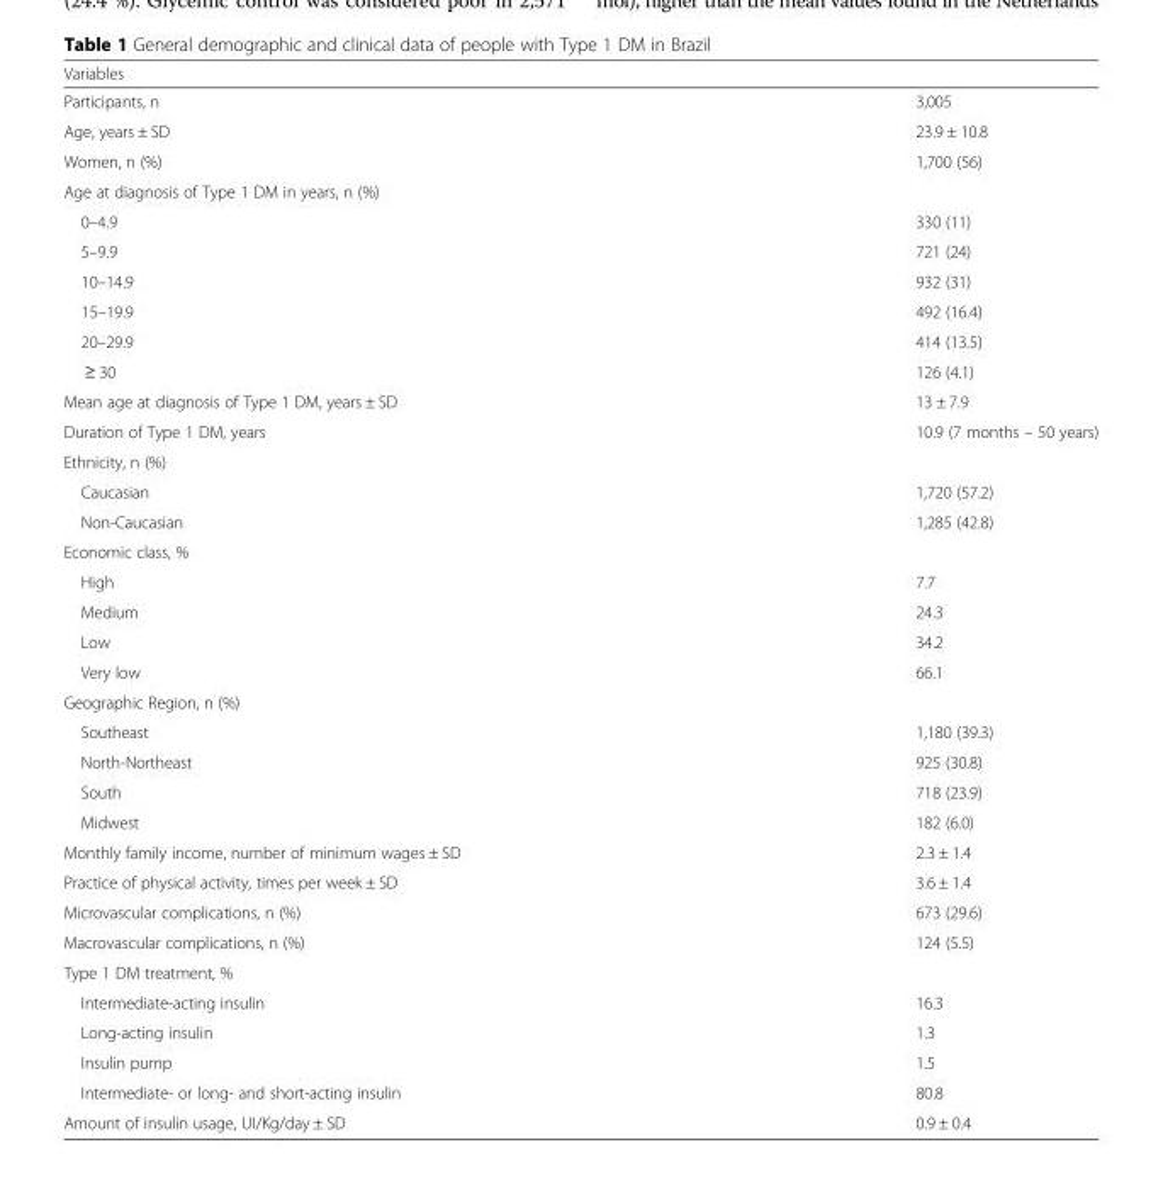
<table><thead><tr><td>Variables</td><td></td></tr></thead><tbody><tr><td>Participants, n</td><td>3,005</td></tr><tr><td>Age, years ± SD</td><td>23.9 ± 10.8</td></tr><tr><td>Women, n (%)</td><td>1,700 (56)</td></tr><tr><td colspan="2">Age at diagnosis of Type 1 DM in years, n (%)</td></tr><tr><td>0–4.9</td><td>330 (11)</td></tr><tr><td>5–9.9</td><td>721 (24)</td></tr><tr><td>10–14.9</td><td>932 (31)</td></tr><tr><td>15–19.9</td><td>492 (16.4)</td></tr><tr><td>20–29.9</td><td>414 (13.5)</td></tr><tr><td>≥ 30</td><td>126 (4.1)</td></tr><tr><td>Mean age at diagnosis of Type 1 DM, years ± SD</td><td>13 ± 7.9</td></tr><tr><td>Duration of Type 1 DM, years</td><td>10.9 (7 months – 50 years)</td></tr><tr><td colspan="2">Ethnicity, n (%)</td></tr><tr><td>Caucasian</td><td>1,720 (57.2)</td></tr><tr><td>Non-Caucasian</td><td>1,285 (42.8)</td></tr><tr><td colspan="2">Economic class, %</td></tr><tr><td>High</td><td>7.7</td></tr><tr><td>Medium</td><td>24.3</td></tr><tr><td>Low</td><td>34.2</td></tr><tr><td>Very low</td><td>66.1</td></tr><tr><td colspan="2">Geographic Region, n (%)</td></tr><tr><td>Southeast</td><td>1,180 (39.3)</td></tr><tr><td>North-Northeast</td><td>925 (30.8)</td></tr><tr><td>South</td><td>718 (23.9)</td></tr><tr><td>Midwest</td><td>182 (6.0)</td></tr><tr><td>Monthly family income, number of minimum wages ± SD</td><td>2.3 ± 1.4</td></tr><tr><td>Practice of physical activity, times per week ± SD</td><td>3.6 ± 1.4</td></tr><tr><td>Microvascular complications, n (%)</td><td>673 (29.6)</td></tr><tr><td>Macrovascular complications, n (%)</td><td>124 (5.5)</td></tr><tr><td colspan="2">Type 1 DM treatment, %</td></tr><tr><td>Intermediate-acting insulin</td><td>16.3</td></tr><tr><td>Long-acting insulin</td><td>1.3</td></tr><tr><td>Insulin pump</td><td>1.5</td></tr><tr><td>Intermediate- or long- and short-acting insulin</td><td>80.8</td></tr><tr><td>Amount of insulin usage, UI/Kg/day ± SD</td><td>0.9 ± 0.4</td></tr></tbody></table>